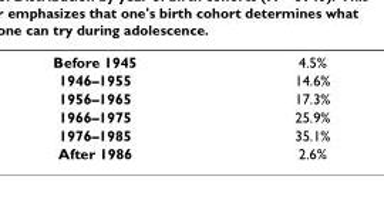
<table><tbody><tr><td>Before 1945</td><td>4.5%</td></tr><tr><td>1946–1955</td><td>14.6%</td></tr><tr><td>1956–1965</td><td>17.3%</td></tr><tr><td>1966–1975</td><td>25.9%</td></tr><tr><td>1976–1985</td><td>35.1%</td></tr><tr><td>After 1986</td><td>2.6%</td></tr></tbody></table>